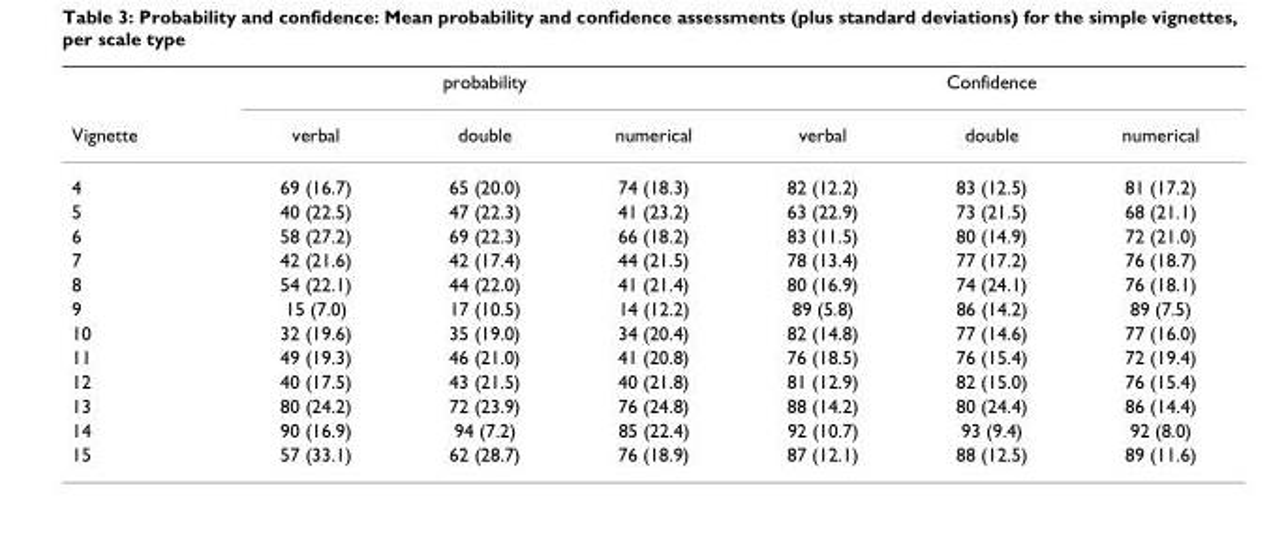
<table><thead><tr><td rowspan="2">Vignette</td><td colspan="3">probability</td><td colspan="3">Confidence</td></tr><tr><td>verbal</td><td>double</td><td>numerical</td><td>verbal</td><td>double</td><td>numerical</td></tr></thead><tbody><tr><td>4</td><td>69 (16.7)</td><td>65 (20.0)</td><td>74 (18.3)</td><td>82 (12.2)</td><td>83 (12.5)</td><td>81 (17.2)</td></tr><tr><td>5</td><td>40 (22.5)</td><td>47 (22.3)</td><td>41 (23.2)</td><td>63 (22.9)</td><td>73 (21.5)</td><td>68 (21.1)</td></tr><tr><td>6</td><td>58 (27.2)</td><td>69 (22.3)</td><td>66 (18.2)</td><td>83 (11.5)</td><td>80 (14.9)</td><td>72 (21.0)</td></tr><tr><td>7</td><td>42 (21.6)</td><td>42 (17.4)</td><td>44 (21.5)</td><td>78 (13.4)</td><td>77 (17.2)</td><td>76 (18.7)</td></tr><tr><td>8</td><td>54 (22.1)</td><td>44 (22.0)</td><td>41 (21.4)</td><td>80 (16.9)</td><td>74 (24.1)</td><td>76 (18.1)</td></tr><tr><td>9</td><td>15 (7.0)</td><td>17 (10.5)</td><td>14 (12.2)</td><td>89 (5.8)</td><td>86 (14.2)</td><td>89 (7.5)</td></tr><tr><td>10</td><td>32 (19.6)</td><td>35 (19.0)</td><td>34 (20.4)</td><td>82 (14.8)</td><td>77 (14.6)</td><td>77 (16.0)</td></tr><tr><td>11</td><td>49 (19.3)</td><td>46 (21.0)</td><td>41 (20.8)</td><td>76 (18.5)</td><td>76 (15.4)</td><td>72 (19.4)</td></tr><tr><td>12</td><td>40 (17.5)</td><td>43 (21.5)</td><td>40 (21.8)</td><td>81 (12.9)</td><td>82 (15.0)</td><td>76 (15.4)</td></tr><tr><td>13</td><td>80 (24.2)</td><td>72 (23.9)</td><td>76 (24.8)</td><td>88 (14.2)</td><td>80 (24.4)</td><td>86 (14.4)</td></tr><tr><td>14</td><td>90 (16.9)</td><td>94 (7.2)</td><td>85 (22.4)</td><td>92 (10.7)</td><td>93 (9.4)</td><td>92 (8.0)</td></tr><tr><td>15</td><td>57 (33.1)</td><td>62 (28.7)</td><td>76 (18.9)</td><td>87 (12.1)</td><td>88 (12.5)</td><td>89 (11.6)</td></tr></tbody></table>